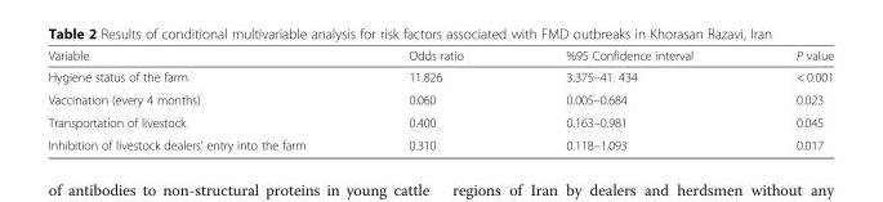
<table><thead><tr><td>Variable</td><td>Odds ratio</td><td>%95 Confidence interval</td><td>P value</td></tr></thead><tbody><tr><td>Hygiene status of the farm</td><td>11.826</td><td>3.375–41. 434</td><td>&lt; 0.001</td></tr><tr><td>Vaccination (every 4 months)</td><td>0.060</td><td>0.005–0.684</td><td>0.023</td></tr><tr><td>Transportation of livestock</td><td>0.400</td><td>0.163–0.981</td><td>0.045</td></tr><tr><td>Inhibition of livestock dealers’ entry into the farm</td><td>0.310</td><td>0.118–1.093</td><td>0.017</td></tr></tbody></table>